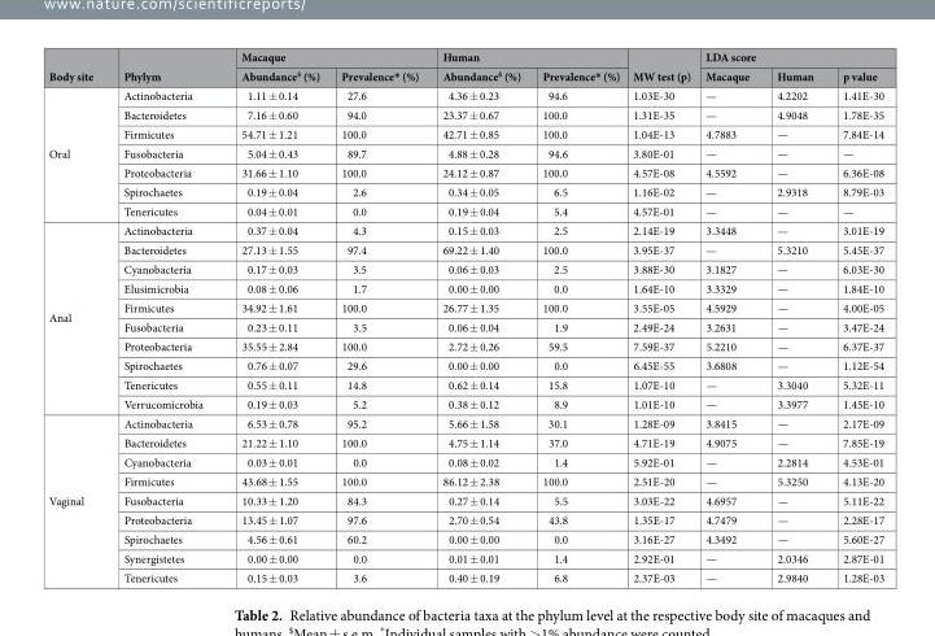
<table><thead><tr><td rowspan="2">Body site</td><td rowspan="2">Phylym</td><td colspan="2">Macaque</td><td colspan="2">Human</td><td rowspan="2">MW test (p)</td><td colspan="3">LDA score</td></tr><tr><td>Abundance<sup>$</sup> (%)</td><td>Prevalence* (%)</td><td>Abundance<sup>$</sup> (%)</td><td>Prevalence* (%)</td><td>Macaque</td><td>Human</td><td>p value</td></tr></thead><tbody><tr><td rowspan="7">Oral</td><td>Actinobacteria</td><td>1.11 ± 0.14</td><td>27.6</td><td>4.36 ± 0.23</td><td>94.6</td><td>1.03E-30</td><td>—</td><td>4.2202</td><td>1.41E-30</td></tr><tr><td>Bacteroidetes</td><td>7.16 ± 0.60</td><td>94.0</td><td>23.37 ± 0.67</td><td>100.0</td><td>1.31E-35</td><td>—</td><td>4.9048</td><td>1.78E-35</td></tr><tr><td>Firmicutes</td><td>54.71 ± 1.21</td><td>100.0</td><td>42.71 ± 0.85</td><td>100.0</td><td>1.04E-13</td><td>4.7883</td><td>—</td><td>7.84E-14</td></tr><tr><td>Fusobacteria</td><td>5.04 ± 0.43</td><td>89.7</td><td>4.88 ± 0.28</td><td>94.6</td><td>3.80E-01</td><td>—</td><td>—</td><td>—</td></tr><tr><td>Proteobacteria</td><td>31.66 ± 1.10</td><td>100.0</td><td>24.12 ± 0.87</td><td>100.0</td><td>4.57E-08</td><td>4.5592</td><td>—</td><td>6.36E-08</td></tr><tr><td>Spirochaetes</td><td>0.19 ± 0.04</td><td>2.6</td><td>0.34 ± 0.05</td><td>6.5</td><td>1.16E-02</td><td>—</td><td>2.9318</td><td>8.79E-03</td></tr><tr><td>Tenericutes</td><td>0.04 ± 0.01</td><td>0.0</td><td>0.19 ± 0.04</td><td>5.4</td><td>4.57E-01</td><td>—</td><td>—</td><td>—</td></tr><tr><td rowspan="10">Anal</td><td>Actinobacteria</td><td>0.37 ± 0.04</td><td>4.3</td><td>0.15 ± 0.03</td><td>2.5</td><td>2.14E-19</td><td>3.3448</td><td>—</td><td>3.01E-19</td></tr><tr><td>Bacteroidetes</td><td>27.13 ± 1.55</td><td>97.4</td><td>69.22 ± 1.40</td><td>100.0</td><td>3.95E-37</td><td>—</td><td>5.3210</td><td>5.45E-37</td></tr><tr><td>Cyanobacteria</td><td>0.17 ± 0.03</td><td>3.5</td><td>0.06 ± 0.03</td><td>2.5</td><td>3.88E-30</td><td>3.1827</td><td>—</td><td>6.03E-30</td></tr><tr><td>Elusimicrobia</td><td>0.08 ± 0.06</td><td>1.7</td><td>0.00 ± 0.00</td><td>0.0</td><td>1.64E-10</td><td>3.3329</td><td>—</td><td>1.84E-10</td></tr><tr><td>Firmicutes</td><td>34.92 ± 1.61</td><td>100.0</td><td>26.77 ± 1.35</td><td>100.0</td><td>3.55E-05</td><td>4.5929</td><td>—</td><td>4.00E-05</td></tr><tr><td>Fusobacteria</td><td>0.23 ± 0.11</td><td>3.5</td><td>0.06 ± 0.04</td><td>1.9</td><td>2.49E-24</td><td>3.2631</td><td>—</td><td>3.47E-24</td></tr><tr><td>Proteobacteria</td><td>35.55 ± 2.84</td><td>100.0</td><td>2.72 ± 0.26</td><td>59.5</td><td>7.59E-37</td><td>5.2210</td><td>—</td><td>6.37E-37</td></tr><tr><td>Spirochaetes</td><td>0.76 ± 0.07</td><td>29.6</td><td>0.00 ± 0.00</td><td>0.0</td><td>6.45E-55</td><td>3.6808</td><td>—</td><td>1.12E-54</td></tr><tr><td>Tenericutes</td><td>0.55 ± 0.11</td><td>14.8</td><td>0.62 ± 0.14</td><td>15.8</td><td>1.07E-10</td><td>—</td><td>3.3040</td><td>5.32E-11</td></tr><tr><td>Verrucomicrobia</td><td>0.19 ± 0.03</td><td>5.2</td><td>0.38 ± 0.12</td><td>8.9</td><td>1.01E-10</td><td>—</td><td>3.3977</td><td>1.45E-10</td></tr><tr><td rowspan="9">Vaginal</td><td>Actinobacteria</td><td>6.53 ± 0.78</td><td>95.2</td><td>5.66 ± 1.58</td><td>30.1</td><td>1.28E-09</td><td>3.8415</td><td>—</td><td>2.17E-09</td></tr><tr><td>Bacteroidetes</td><td>21.22 ± 1.10</td><td>100.0</td><td>4.75 ± 1.14</td><td>37.0</td><td>4.71E-19</td><td>4.9075</td><td>—</td><td>7.85E-19</td></tr><tr><td>Cyanobacteria</td><td>0.03 ± 0.01</td><td>0.0</td><td>0.08 ± 0.02</td><td>1.4</td><td>5.92E-01</td><td>—</td><td>2.2814</td><td>4.53E-01</td></tr><tr><td>Firmicutes</td><td>43.68 ± 1.55</td><td>100.0</td><td>86.12 ± 2.38</td><td>100.0</td><td>2.51E-20</td><td>—</td><td>5.3250</td><td>4.13E-20</td></tr><tr><td>Fusobacteria</td><td>10.33 ± 1.20</td><td>84.3</td><td>0.27 ± 0.14</td><td>5.5</td><td>3.03E-22</td><td>4.6957</td><td>—</td><td>5.11E-22</td></tr><tr><td>Proteobacteria</td><td>13.45 ± 1.07</td><td>97.6</td><td>2.70 ± 0.54</td><td>43.8</td><td>1.35E-17</td><td>4.7479</td><td>—</td><td>2.28E-17</td></tr><tr><td>Spirochaetes</td><td>4.56 ± 0.61</td><td>60.2</td><td>0.00 ± 0.00</td><td>0.0</td><td>3.16E-27</td><td>4.3492</td><td>—</td><td>5.60E-27</td></tr><tr><td>Synergistetes</td><td>0.00 ± 0.00</td><td>0.0</td><td>0.01 ± 0.01</td><td>1.4</td><td>2.92E-01</td><td>—</td><td>2.0346</td><td>2.87E-01</td></tr><tr><td>Tenericutes</td><td>0.15 ± 0.03</td><td>3.6</td><td>0.40 ± 0.19</td><td>6.8</td><td>2.37E-03</td><td>—</td><td>2.9840</td><td>1.28E-03</td></tr></tbody></table>